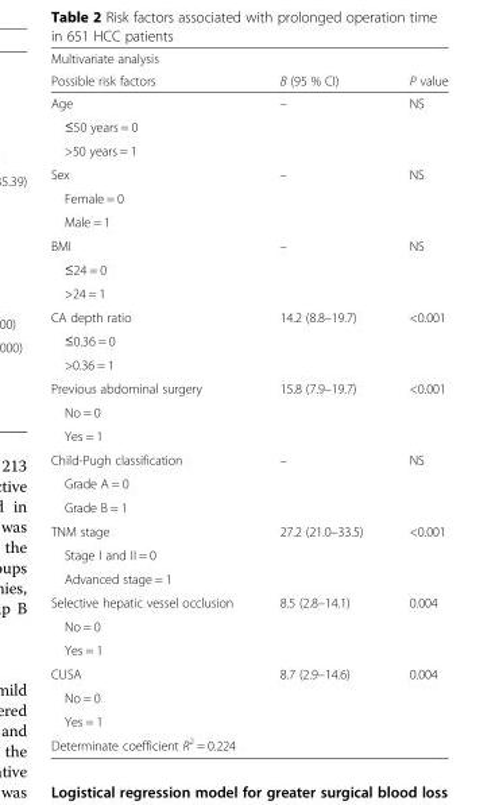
<table><thead><tr><td rowspan="2">Multivariate analysis Possible risk factors</td><td rowspan="2">B (95 % CI)</td><td rowspan="2">P value</td></tr><tr></tr></thead><tbody><tr><td>Age</td><td>–</td><td>NS</td></tr><tr><td colspan="3">≤50 years = 0</td></tr><tr><td colspan="3">&gt;50 years = 1</td></tr><tr><td>Sex</td><td>–</td><td>NS</td></tr><tr><td colspan="3">Female = 0</td></tr><tr><td colspan="3">Male = 1</td></tr><tr><td>BMI</td><td>–</td><td>NS</td></tr><tr><td colspan="3">≤24 = 0</td></tr><tr><td colspan="3">&gt;24 = 1</td></tr><tr><td>CA depth ratio</td><td>14.2 (8.8–19.7)</td><td>&lt;0.001</td></tr><tr><td colspan="3">≤0.36 = 0</td></tr><tr><td colspan="3">&gt;0.36 = 1</td></tr><tr><td>Previous abdominal surgery</td><td>15.8 (7.9–19.7)</td><td>&lt;0.001</td></tr><tr><td colspan="3">No = 0</td></tr><tr><td colspan="3">Yes = 1</td></tr><tr><td>Child-Pugh classification</td><td>–</td><td>NS</td></tr><tr><td colspan="3">Grade A = 0</td></tr><tr><td colspan="3">Grade B = 1</td></tr><tr><td>TNM stage</td><td>27.2 (21.0–33.5)</td><td>&lt;0.001</td></tr><tr><td colspan="3">Stage I and II = 0</td></tr><tr><td colspan="3">Advanced stage = 1</td></tr><tr><td>Selective hepatic vessel occlusion</td><td>8.5 (2.8–14.1)</td><td>0.004</td></tr><tr><td colspan="3">No = 0</td></tr><tr><td colspan="3">Yes = 1</td></tr><tr><td>CUSA</td><td>8.7 (2.9–14.6)</td><td>0.004</td></tr><tr><td colspan="3">No = 0</td></tr><tr><td colspan="3">Yes = 1</td></tr><tr><td colspan="3">Determinate coefficient R<sup>2</sup> = 0.224</td></tr></tbody></table>